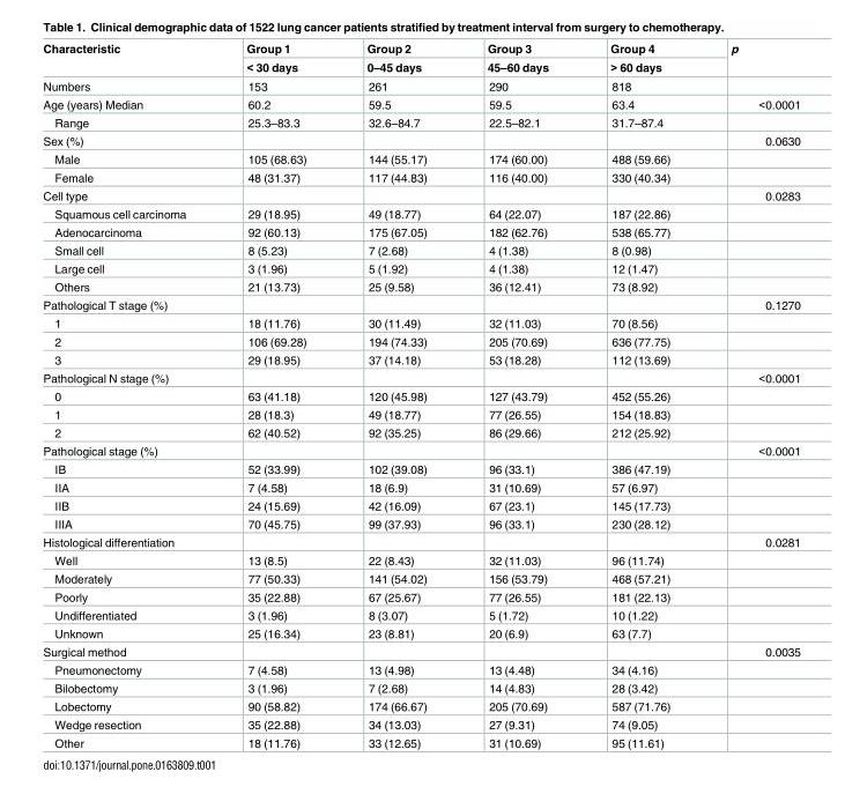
<table><thead><tr><td rowspan="2">Characteristic</td><td rowspan="2">Group 1 &lt; 30 days</td><td rowspan="2">Group 2 0–45 days</td><td rowspan="2">Group 3 45–60 days</td><td rowspan="2">Group 4 &gt; 60 days</td><td rowspan="2">p</td></tr><tr></tr></thead><tbody><tr><td>Numbers</td><td>153</td><td>261</td><td>290</td><td>818</td><td></td></tr><tr><td>Age (years) Median</td><td>60.2</td><td>59.5</td><td>59.5</td><td>63.4</td><td>&lt;0.0001</td></tr><tr><td>Range</td><td>25.3–83.3</td><td>32.6–84.7</td><td>22.5–82.1</td><td>31.7–87.4</td><td></td></tr><tr><td>Sex (%)</td><td></td><td></td><td></td><td></td><td>0.0630</td></tr><tr><td>Male</td><td>105 (68.63)</td><td>144 (55.17)</td><td>174 (60.00)</td><td>488 (59.66)</td><td></td></tr><tr><td>Female</td><td>48 (31.37)</td><td>117 (44.83)</td><td>116 (40.00)</td><td>330 (40.34)</td><td></td></tr><tr><td>Cell type</td><td></td><td></td><td></td><td></td><td>0.0283</td></tr><tr><td>Squamous cell carcinoma</td><td>29 (18.95)</td><td>49 (18.77)</td><td>64 (22.07)</td><td>187 (22.86)</td><td></td></tr><tr><td>Adenocarcinoma</td><td>92 (60.13)</td><td>175 (67.05)</td><td>182 (62.76)</td><td>538 (65.77)</td><td></td></tr><tr><td>Small cell</td><td>8 (5.23)</td><td>7 (2.68)</td><td>4 (1.38)</td><td>8 (0.98)</td><td></td></tr><tr><td>Large cell</td><td>3 (1.96)</td><td>5 (1.92)</td><td>4 (1.38)</td><td>12 (1.47)</td><td></td></tr><tr><td>Others</td><td>21 (13.73)</td><td>25 (9.58)</td><td>36 (12.41)</td><td>73 (8.92)</td><td></td></tr><tr><td>Pathological T stage (%)</td><td></td><td></td><td></td><td></td><td>0.1270</td></tr><tr><td>1</td><td>18 (11.76)</td><td>30 (11.49)</td><td>32 (11.03)</td><td>70 (8.56)</td><td></td></tr><tr><td>2</td><td>106 (69.28)</td><td>194 (74.33)</td><td>205 (70.69)</td><td>636 (77.75)</td><td></td></tr><tr><td>3</td><td>29 (18.95)</td><td>37 (14.18)</td><td>53 (18.28)</td><td>112 (13.69)</td><td></td></tr><tr><td>Pathological N stage (%)</td><td></td><td></td><td></td><td></td><td>&lt;0.0001</td></tr><tr><td>0</td><td>63 (41.18)</td><td>120 (45.98)</td><td>127 (43.79)</td><td>452 (55.26)</td><td></td></tr><tr><td>1</td><td>28 (18.3)</td><td>49 (18.77)</td><td>77 (26.55)</td><td>154 (18.83)</td><td></td></tr><tr><td>2</td><td>62 (40.52)</td><td>92 (35.25)</td><td>86 (29.66)</td><td>212 (25.92)</td><td></td></tr><tr><td>Pathological stage (%)</td><td></td><td></td><td></td><td></td><td>&lt;0.0001</td></tr><tr><td>IB</td><td>52 (33.99)</td><td>102 (39.08)</td><td>96 (33.1)</td><td>386 (47.19)</td><td></td></tr><tr><td>IIA</td><td>7 (4.58)</td><td>18 (6.9)</td><td>31 (10.69)</td><td>57 (6.97)</td><td></td></tr><tr><td>IIB</td><td>24 (15.69)</td><td>42 (16.09)</td><td>67 (23.1)</td><td>145 (17.73)</td><td></td></tr><tr><td>IIIA</td><td>70 (45.75)</td><td>99 (37.93)</td><td>96 (33.1)</td><td>230 (28.12)</td><td></td></tr><tr><td>Histological differentiation</td><td></td><td></td><td></td><td></td><td>0.0281</td></tr><tr><td>Well</td><td>13 (8.5)</td><td>22 (8.43)</td><td>32 (11.03)</td><td>96 (11.74)</td><td></td></tr><tr><td>Moderately</td><td>77 (50.33)</td><td>141 (54.02)</td><td>156 (53.79)</td><td>468 (57.21)</td><td></td></tr><tr><td>Poorly</td><td>35 (22.88)</td><td>67 (25.67)</td><td>77 (26.55)</td><td>181 (22.13)</td><td></td></tr><tr><td>Undifferentiated</td><td>3 (1.96)</td><td>8 (3.07)</td><td>5 (1.72)</td><td>10 (1.22)</td><td></td></tr><tr><td>Unknown</td><td>25 (16.34)</td><td>23 (8.81)</td><td>20 (6.9)</td><td>63 (7.7)</td><td></td></tr><tr><td>Surgical method</td><td></td><td></td><td></td><td></td><td>0.0035</td></tr><tr><td>Pneumonectomy</td><td>7 (4.58)</td><td>13 (4.98)</td><td>13 (4.48)</td><td>34 (4.16)</td><td></td></tr><tr><td>Bilobectomy</td><td>3 (1.96)</td><td>7 (2.68)</td><td>14 (4.83)</td><td>28 (3.42)</td><td></td></tr><tr><td>Lobectomy</td><td>90 (58.82)</td><td>174 (66.67)</td><td>205 (70.69)</td><td>587 (71.76)</td><td></td></tr><tr><td>Wedge resection</td><td>35 (22.88)</td><td>34 (13.03)</td><td>27 (9.31)</td><td>74 (9.05)</td><td></td></tr><tr><td>Other</td><td>18 (11.76)</td><td>33 (12.65)</td><td>31 (10.69)</td><td>95 (11.61)</td><td></td></tr></tbody></table>